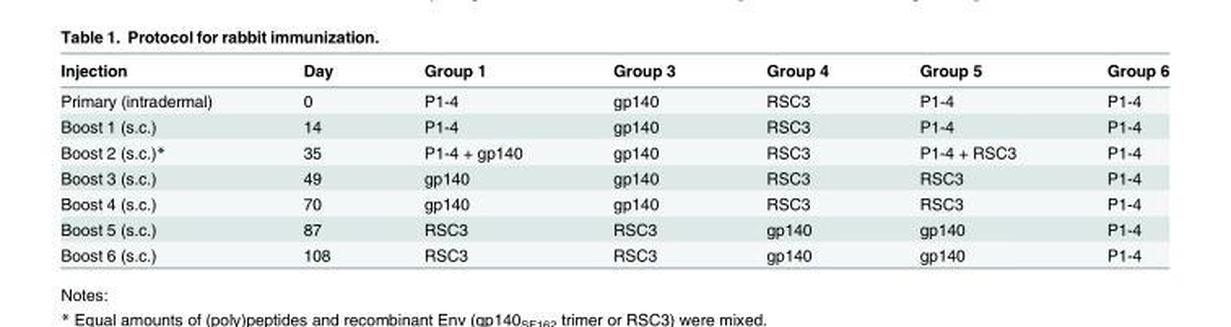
<table><thead><tr><td>Injection</td><td>Day</td><td>Group 1</td><td>Group 3</td><td>Group 4</td><td>Group 5</td><td>Group 6</td></tr></thead><tbody><tr><td>Primary (intradermal)</td><td>0</td><td>P1-4</td><td>gp140</td><td>RSC3</td><td>P1-4</td><td>P1-4</td></tr><tr><td>Boost 1 (s.c.)</td><td>14</td><td>P1-4</td><td>gp140</td><td>RSC3</td><td>P1-4</td><td>P1-4</td></tr><tr><td>Boost 2 (s.c.)*</td><td>35</td><td>P1-4 + gp140</td><td>gp140</td><td>RSC3</td><td>P1-4 + RSC3</td><td>P1-4</td></tr><tr><td>Boost 3 (s.c.)</td><td>49</td><td>gp140</td><td>gp140</td><td>RSC3</td><td>RSC3</td><td>P1-4</td></tr><tr><td>Boost 4 (s.c.)</td><td>70</td><td>gp140</td><td>gp140</td><td>RSC3</td><td>RSC3</td><td>P1-4</td></tr><tr><td>Boost 5 (s.c.)</td><td>87</td><td>RSC3</td><td>RSC3</td><td>gp140</td><td>gp140</td><td>P1-4</td></tr><tr><td>Boost 6 (s.c.)</td><td>108</td><td>RSC3</td><td>RSC3</td><td>gp140</td><td>gp140</td><td>P1-4</td></tr></tbody></table>